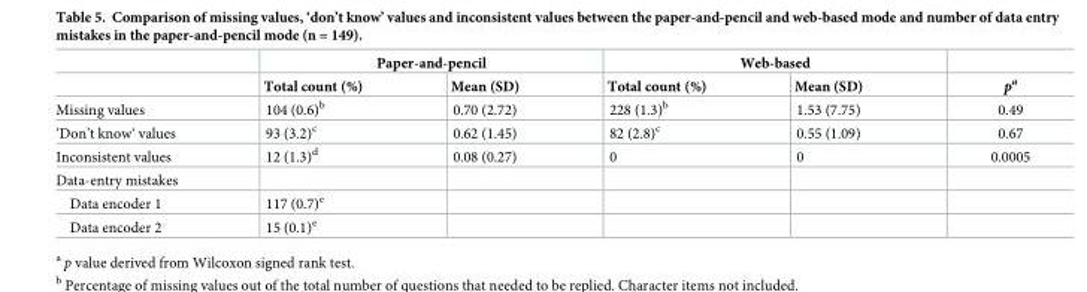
<table><thead><tr><td rowspan="2"></td><td colspan="2">Paper-and-pencil</td><td colspan="2">Web-based</td><td rowspan="2">p<sup>a</sup></td></tr><tr><td>Total count (%)</td><td>Mean (SD)</td><td>Total count (%)</td><td>Mean (SD)</td></tr></thead><tbody><tr><td>Missing values</td><td>104 (0.6)<sup>b</sup></td><td>0.70 (2.72)</td><td>228 (1.3)<sup>b</sup></td><td>1.53 (7.75)</td><td>0.49</td></tr><tr><td>‘Don’t know‘ values</td><td>93 (3.2)<sup>c</sup></td><td>0.62 (1.45)</td><td>82 (2.8)<sup>c</sup></td><td>0.55 (1.09)</td><td>0.67</td></tr><tr><td>Inconsistent values</td><td>12 (1.3)<sup>d</sup></td><td>0.08 (0.27)</td><td>0</td><td>0</td><td>0.0005</td></tr><tr><td colspan="6">Data-entry mistakes</td></tr><tr><td>Data encoder 1</td><td>117 (0.7)<sup>e</sup></td><td></td><td></td><td></td><td></td></tr><tr><td>Data encoder 2</td><td>15 (0.1)<sup>e</sup></td><td></td><td></td><td></td><td></td></tr></tbody></table>